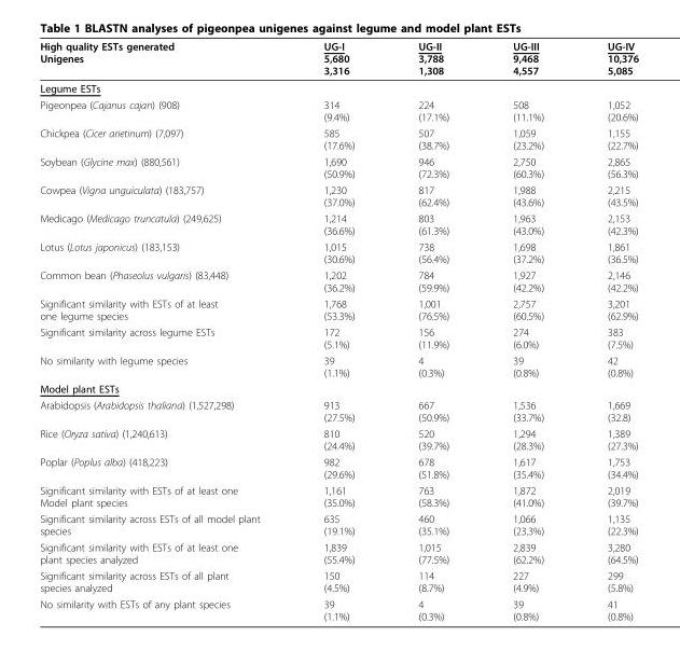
<table><thead><tr><td>High quality ESTs generated Unigenes</td><td>UG-I 5,680 3,316</td><td>UG-II 3,788 1,308</td><td>UG-III 9,468 4,557</td><td>UG-IV 10,376 5,085</td></tr></thead><tbody><tr><td colspan="5">Legume ESTs</td></tr><tr><td>Pigeonpea (Cajanus cajan) (908)</td><td>314 (9.4%)</td><td>224 (17.1%)</td><td>508 (11.1%)</td><td>1,052 (20.6%)</td></tr><tr><td>Chickpea (Cicer arietinum) (7,097)</td><td>585 (17.6%)</td><td>507 (38.7%)</td><td>1,059 (23.2%)</td><td>1,155 (22.7%)</td></tr><tr><td>Soybean (Glycine max) (880,561)</td><td>1,690 (50.9%)</td><td>946 (72.3%)</td><td>2,750 (60.3%)</td><td>2,865 (56.3%)</td></tr><tr><td>Cowpea (Vigna unguiculata) (183,757)</td><td>1,230 (37.0%)</td><td>817 (62.4%)</td><td>1,988 (43.6%)</td><td>2,215 (43.5%)</td></tr><tr><td>Medicago (Medicago truncatula) (249,625)</td><td>1,214 (36.6%)</td><td>803 (61.3%)</td><td>1,963 (43.0%)</td><td>2,153 (42.3%)</td></tr><tr><td>Lotus (Lotus japonicus) (183,153)</td><td>1,015 (30.6%)</td><td>738 (56.4%)</td><td>1,698 (37.2%)</td><td>1,861 (36.5%)</td></tr><tr><td>Common bean (Phaseolus vulgaris) (83,448)</td><td>1,202 (36.2%)</td><td>784 (59.9%)</td><td>1,927 (42.2%)</td><td>2,146 (42.2%)</td></tr><tr><td>Significant similarity with ESTs of at least one legume species</td><td>1,768 (53.3%)</td><td>1,001 (76.5%)</td><td>2,757 (60.5%)</td><td>3,201 (62.9%)</td></tr><tr><td>Significant similarity across legume ESTs</td><td>172 (5.1%)</td><td>156 (11.9%)</td><td>274 (6.0%)</td><td>383 (7.5%)</td></tr><tr><td>No similarity with legume species</td><td>39 (1.1%)</td><td>4 (0.3%)</td><td>39 (0.8%)</td><td>42 (0.8%)</td></tr><tr><td colspan="5">Model plant ESTs</td></tr><tr><td>Arabidopsis (Arabidopsis thaliana) (1,527,298)</td><td>913 (27.5%)</td><td>667 (50.9%)</td><td>1,536 (33.7%)</td><td>1,669 (32.8)</td></tr><tr><td>Rice (Oryza sativa) (1,240,613)</td><td>810 (24.4%)</td><td>520 (39.7%)</td><td>1,294 (28.3%)</td><td>1,389 (27.3%)</td></tr><tr><td>Poplar (Poplus alba) (418,223)</td><td>982 (29.6%)</td><td>678 (51.8%)</td><td>1,617 (35.4%)</td><td>1,753 (34.4%)</td></tr><tr><td>Significant similarity with ESTs of at least one Model plant species</td><td>1,161 (35.0%)</td><td>763 (58.3%)</td><td>1,872 (41.0%)</td><td>2,019 (39.7%)</td></tr><tr><td>Significant similarity across ESTs of all model plant species</td><td>635 (19.1%)</td><td>460 (35.1%)</td><td>1,066 (23.3%)</td><td>1,135 (22.3%)</td></tr><tr><td>Significant similarity with ESTs of at least one plant species analyzed</td><td>1,839 (55.4%)</td><td>1,015 (77.5%)</td><td>2,839 (62.2%)</td><td>3,280 (64.5%)</td></tr><tr><td>Significant similarity across ESTs of all plant species analyzed</td><td>150 (4.5%)</td><td>114 (8.7%)</td><td>227 (4.9%)</td><td>299 (5.8%)</td></tr><tr><td>No similarity with ESTs of any plant species</td><td>39 (1.1%)</td><td>4 (0.3%)</td><td>39 (0.8%)</td><td>41 (0.8%)</td></tr></tbody></table>